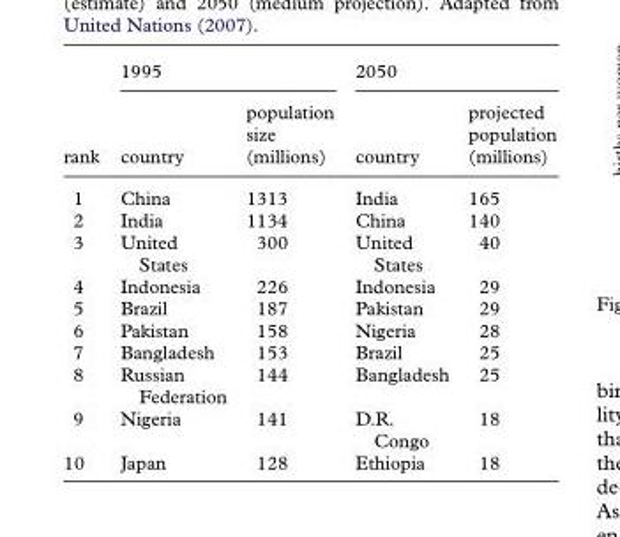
<table><thead><tr><td rowspan="2">rank</td><td colspan="2">1995</td><td colspan="2">2050</td></tr><tr><td>country</td><td>population size (millions)</td><td>country</td><td>projected population (millions)</td></tr></thead><tbody><tr><td>1</td><td>China</td><td>1313</td><td>India</td><td>165</td></tr><tr><td>2</td><td>India</td><td>1134</td><td>China</td><td>140</td></tr><tr><td>3</td><td>United States</td><td>300</td><td>United States</td><td>40</td></tr><tr><td>4</td><td>Indonesia</td><td>226</td><td>Indonesia</td><td>29</td></tr><tr><td>5</td><td>Brazil</td><td>187</td><td>Pakistan</td><td>29</td></tr><tr><td>6</td><td>Pakistan</td><td>158</td><td>Nigeria</td><td>28</td></tr><tr><td>7</td><td>Bangladesh</td><td>153</td><td>Brazil</td><td>25</td></tr><tr><td>8</td><td>Russian Federation</td><td>144</td><td>Bangladesh</td><td>25</td></tr><tr><td>9</td><td>Nigeria</td><td>141</td><td>D.R. Congo</td><td>18</td></tr><tr><td>10</td><td>Japan</td><td>128</td><td>Ethiopia</td><td>18</td></tr></tbody></table>